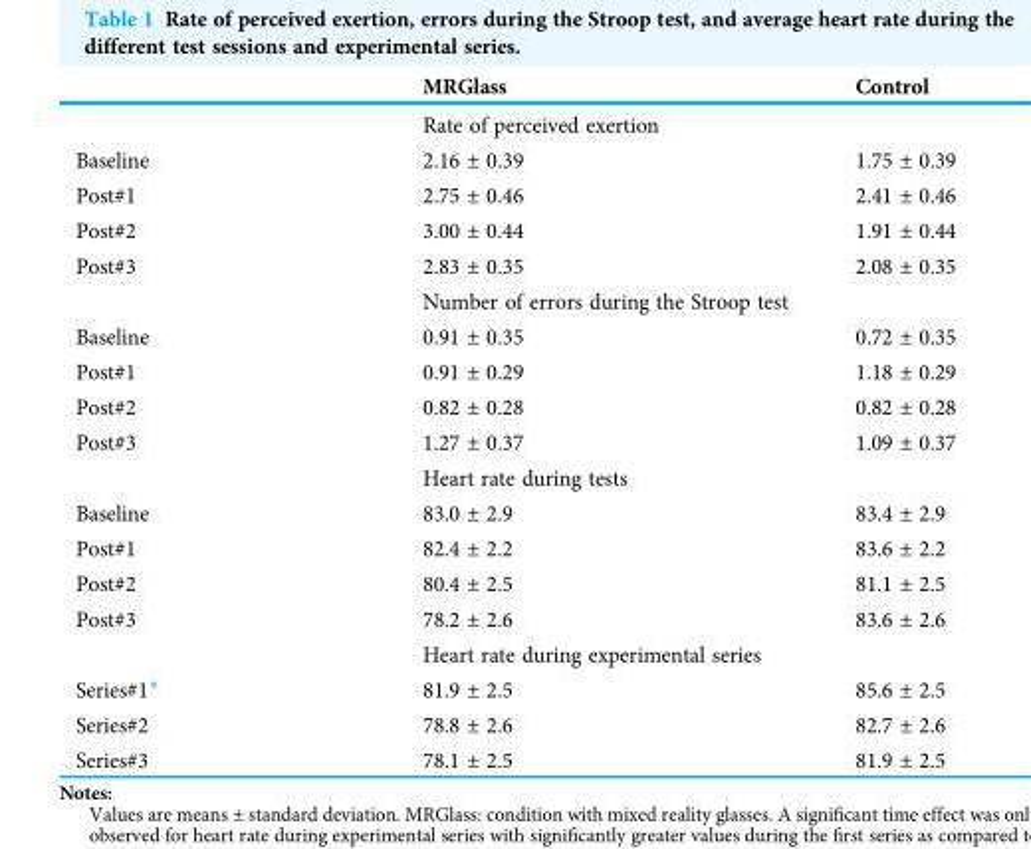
<table><thead><tr><td></td><td>MRGlass</td><td>Control</td></tr></thead><tbody><tr><td></td><td colspan="2">Rate of perceived exertion</td></tr><tr><td>Baseline</td><td>2.16 ± 0.39</td><td>1.75 ± 0.39</td></tr><tr><td>Post#1</td><td>2.75 ± 0.46</td><td>2.41 ± 0.46</td></tr><tr><td>Post#2</td><td>3.00 ± 0.44</td><td>1.91 ± 0.44</td></tr><tr><td rowspan="2">Post#3</td><td>2.83 ± 0.35</td><td>2.08 ± 0.35</td></tr><tr><td colspan="2">Number of errors during the Stroop test</td></tr><tr><td>Baseline</td><td>0.91 ± 0.35</td><td>0.72 ± 0.35</td></tr><tr><td>Post#1</td><td>0.91 ± 0.29</td><td>1.18 ± 0.29</td></tr><tr><td>Post#2</td><td>0.82 ± 0.28</td><td>0.82 ± 0.28</td></tr><tr><td rowspan="2">Post#3</td><td>1.27 ± 0.37</td><td>1.09 ± 0.37</td></tr><tr><td colspan="2">Heart rate during tests</td></tr><tr><td>Baseline</td><td>83.0 ± 2.9</td><td>83.4 ± 2.9</td></tr><tr><td>Post#1</td><td>82.4 ± 2.2</td><td>83.6 ± 2.2</td></tr><tr><td>Post#2</td><td>80.4 ± 2.5</td><td>81.1 ± 2.5</td></tr><tr><td rowspan="2">Post#3</td><td>78.2 ± 2.6</td><td>83.6 ± 2.6</td></tr><tr><td colspan="2">Heart rate during experimental series</td></tr><tr><td>Series#1*</td><td>81.9 ± 2.5</td><td>85.6 ± 2.5</td></tr><tr><td>Series#2</td><td>78.8 ± 2.6</td><td>82.7 ± 2.6</td></tr><tr><td>Series#3</td><td>78.1 ± 2.5</td><td>81.9 ± 2.5</td></tr></tbody></table>